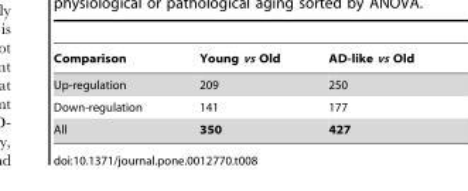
<table><thead><tr><td>Comparison</td><td>Young vs Old</td><td>AD-like vs Old</td></tr></thead><tbody><tr><td>Up-regulation</td><td>209</td><td>250</td></tr><tr><td>Down-regulation</td><td>141</td><td>177</td></tr><tr><td>All</td><td>350</td><td>427</td></tr></tbody></table>